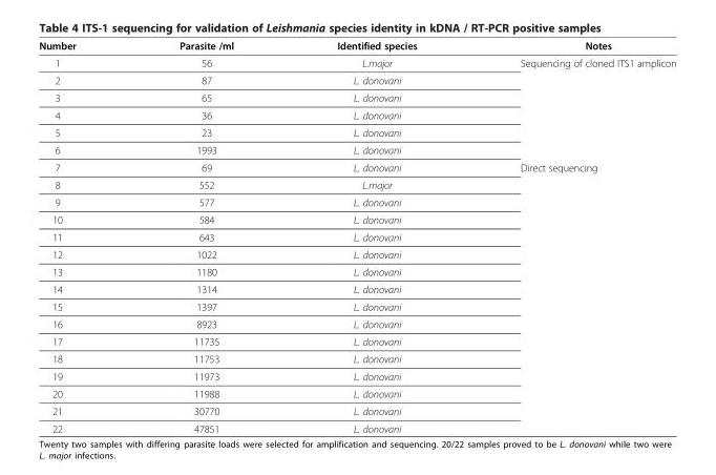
<table><thead><tr><td>Number</td><td>Parasite /ml</td><td>Identified species</td><td>Notes</td></tr></thead><tbody><tr><td>1</td><td>56</td><td>L.major</td><td>Sequencing of cloned ITS1 amplicon</td></tr><tr><td>2</td><td>87</td><td>L. donovani</td><td></td></tr><tr><td>3</td><td>65</td><td>L. donovani</td><td></td></tr><tr><td>4</td><td>36</td><td>L. donovani</td><td></td></tr><tr><td>5</td><td>23</td><td>L. donovani</td><td></td></tr><tr><td>6</td><td>1993</td><td>L. donovani</td><td></td></tr><tr><td>7</td><td>69</td><td>L. donovani</td><td>Direct sequencing</td></tr><tr><td>8</td><td>552</td><td>L.major</td><td></td></tr><tr><td>9</td><td>577</td><td>L. donovani</td><td></td></tr><tr><td>10</td><td>584</td><td>L. donovani</td><td></td></tr><tr><td>11</td><td>643</td><td>L. donovani</td><td></td></tr><tr><td>12</td><td>1022</td><td>L. donovani</td><td></td></tr><tr><td>13</td><td>1180</td><td>L. donovani</td><td></td></tr><tr><td>14</td><td>1314</td><td>L. donovani</td><td></td></tr><tr><td>15</td><td>1397</td><td>L. donovani</td><td></td></tr><tr><td>16</td><td>8923</td><td>L. donovani</td><td></td></tr><tr><td>17</td><td>11735</td><td>L. donovani</td><td></td></tr><tr><td>18</td><td>11753</td><td>L. donovani</td><td></td></tr><tr><td>19</td><td>11973</td><td>L. donovani</td><td></td></tr><tr><td>20</td><td>11988</td><td>L. donovani</td><td></td></tr><tr><td>21</td><td>30770</td><td>L. donovani</td><td></td></tr><tr><td>22</td><td>47851</td><td>L. donovani</td><td></td></tr></tbody></table>